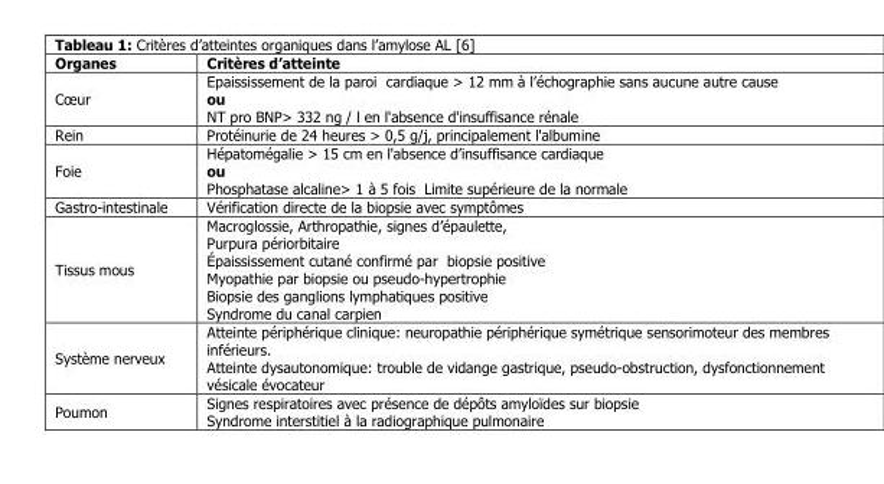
<table><thead><tr><td>Organes</td><td>Critères d’atteinte</td></tr></thead><tbody><tr><td>Cœur</td><td>Epaississement de la paroi cardiaque &gt; 12 mm à l’échographie sans aucune autre cause ou NT pro BNP&gt; 332 ng / l en l&#x27;absence d&#x27;insuffisance rénale</td></tr><tr><td>Rein</td><td>Protéinurie de 24 heures &gt; 0,5 g/j, principalement l&#x27;albumine</td></tr><tr><td>Foie</td><td>Hépatomégalie &gt; 15 cm en l&#x27;absence d’insuffisance cardiaque ou Phosphatase alcaline&gt; 1 à 5 fois Limite supérieure de la normale</td></tr><tr><td>Gastro-intestinale</td><td>Vérification directe de la biopsie avec symptômes</td></tr><tr><td>Tissus mous</td><td>Macroglossie, Arthropathie, signes d’épaulette, Purpura périorbitaire Épaississement cutané confirmé par biopsie positive Myopathie par biopsie ou pseudo-hypertrophie Biopsie des ganglions lymphatiques positive Syndrome du canal carpien</td></tr><tr><td>Système nerveux</td><td>Atteinte périphérique clinique: neuropathie périphérique symétrique sensorimoteur des membres inférieurs. Atteinte dysautonomique: trouble de vidange gastrique, pseudo-obstruction, dysfonctionnement vésicale évocateur</td></tr><tr><td>Poumon</td><td>Signes respiratoires avec présence de dépôts amyloïdes sur biopsie Syndrome interstitiel à la radiographique pulmonaire</td></tr></tbody></table>